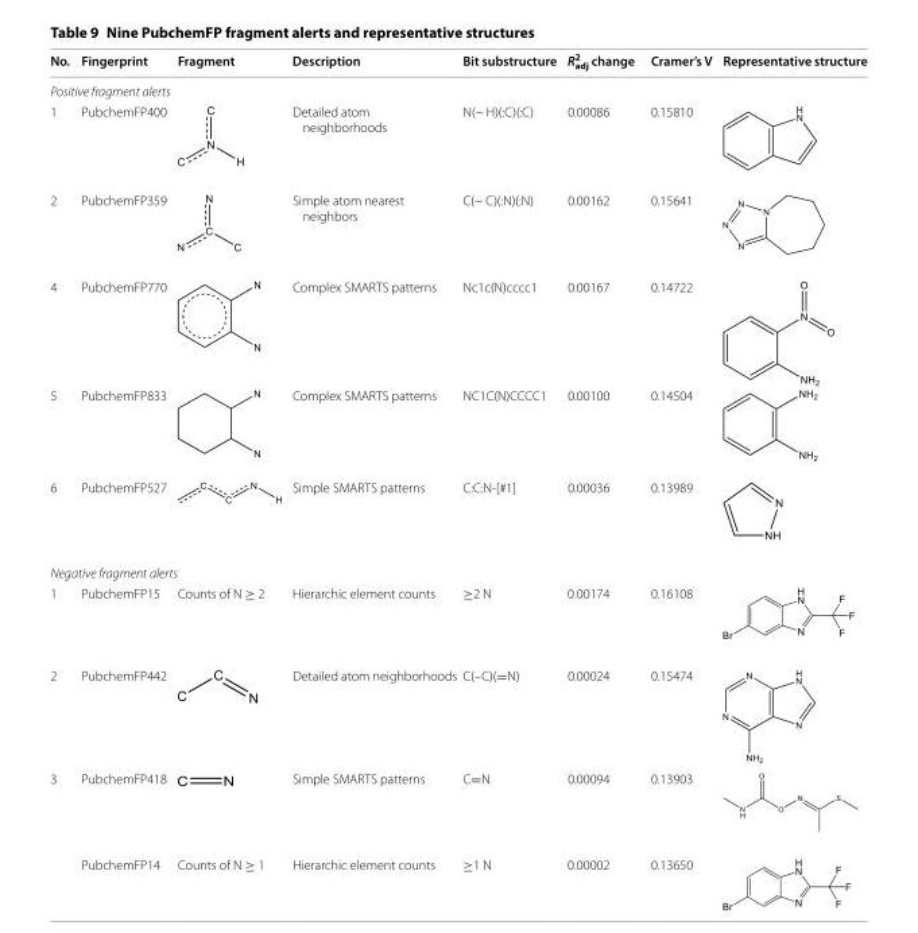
<table><thead><tr><td>No.</td><td>Fingerprint</td><td>Fragment</td><td>Description</td><td>Bit substructure</td><td>R2 adj change</td><td>Cramer’s V</td><td>Representative structure</td></tr></thead><tbody><tr><td colspan="8">Positive fragment alerts</td></tr><tr><td>1</td><td>PubchemFP400</td><td></td><td>Detailed atom neighborhoods</td><td>N(~ H)(:C)(:C)</td><td>0.00086</td><td>0.15810</td><td></td></tr><tr><td>2</td><td>PubchemFP359</td><td></td><td>Simple atom nearest neighbors</td><td>C(~ C)(:N)(:N)</td><td>0.00162</td><td>0.15641</td><td></td></tr><tr><td>4</td><td>PubchemFP770</td><td></td><td>Complex SMARTS patterns</td><td>Nc1c(N)cccc1</td><td>0.00167</td><td>0.14722</td><td></td></tr><tr><td>5</td><td>PubchemFP833</td><td></td><td>Complex SMARTS patterns</td><td>NC1C(N)CCCC1</td><td>0.00100</td><td>0.14504</td><td></td></tr><tr><td>6</td><td>PubchemFP527</td><td></td><td>Simple SMARTS patterns</td><td>C:C:N-[#1]</td><td>0.00036</td><td>0.13989</td><td></td></tr><tr><td colspan="8">Negative fragment alerts</td></tr><tr><td>1</td><td>PubchemFP15</td><td>Counts of N ≥ 2</td><td>Hierarchic element counts</td><td>≥2 N</td><td>0.00174</td><td>0.16108</td><td></td></tr><tr><td>2</td><td>PubchemFP442</td><td></td><td>Detailed atom neighborhoods</td><td>C(–C)(=N)</td><td>0.00024</td><td>0.15474</td><td></td></tr><tr><td rowspan="2">3</td><td>PubchemFP418</td><td></td><td>Simple SMARTS patterns</td><td>C=N</td><td>0.00094</td><td>0.13903</td><td></td></tr><tr><td>PubchemFP14</td><td>Counts of N ≥ 1</td><td>Hierarchic element counts</td><td>≥1 N</td><td>0.00002</td><td>0.13650</td><td></td></tr></tbody></table>